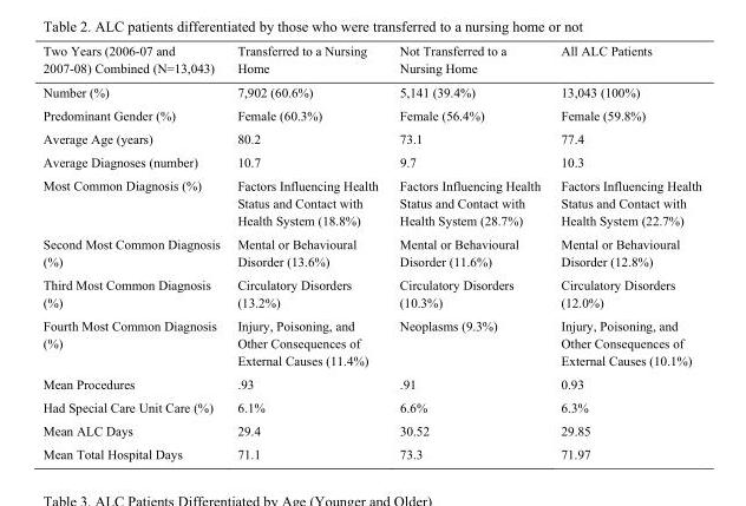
<table><thead><tr><td>Two Years (2006-07 and 2007-08) Combined (N=13,043)</td><td>Transferred to a Nursing Home</td><td>Not Transferred to a Nursing Home</td><td>All ALC Patients</td></tr></thead><tbody><tr><td>Number (%)</td><td>7,902 (60.6%)</td><td>5,141 (39.4%)</td><td>13,043 (100%)</td></tr><tr><td>Predominant Gender (%)</td><td>Female (60.3%)</td><td>Female (56.4%)</td><td>Female (59.8%)</td></tr><tr><td>Average Age (years)</td><td>80.2</td><td>73.1</td><td>77.4</td></tr><tr><td>Average Diagnoses (number)</td><td>10.7</td><td>9.7</td><td>10.3</td></tr><tr><td>Most Common Diagnosis (%)</td><td>Factors Influencing Health Status and Contact with Health System (18.8%)</td><td>Factors Influencing Health Status and Contact with Health System (28.7%)</td><td>Factors Influencing Health Status and Contact with Health System (22.7%)</td></tr><tr><td>Second Most Common Diagnosis (%)</td><td>Mental or Behavioural Disorder (13.6%)</td><td>Mental or Behavioural Disorder (11.6%)</td><td>Mental or Behavioural Disorder (12.8%)</td></tr><tr><td>Third Most Common Diagnosis (%)</td><td>Circulatory Disorders (13.2%)</td><td>Circulatory Disorders (10.3%)</td><td>Circulatory Disorders (12.0%)</td></tr><tr><td>Fourth Most Common Diagnosis (%)</td><td>Injury, Poisoning, and Other Consequences of External Causes (11.4%)</td><td>Neoplasms (9.3%)</td><td>Injury, Poisoning, and Other Consequences of External Causes (10.1%)</td></tr><tr><td>Mean Procedures</td><td>.93</td><td>.91</td><td>0.93</td></tr><tr><td>Had Special Care Unit Care (%)</td><td>6.1%</td><td>6.6%</td><td>6.3%</td></tr><tr><td>Mean ALC Days</td><td>29.4</td><td>30.52</td><td>29.85</td></tr><tr><td>Mean Total Hospital Days</td><td>71.1</td><td>73.3</td><td>71.97</td></tr></tbody></table>